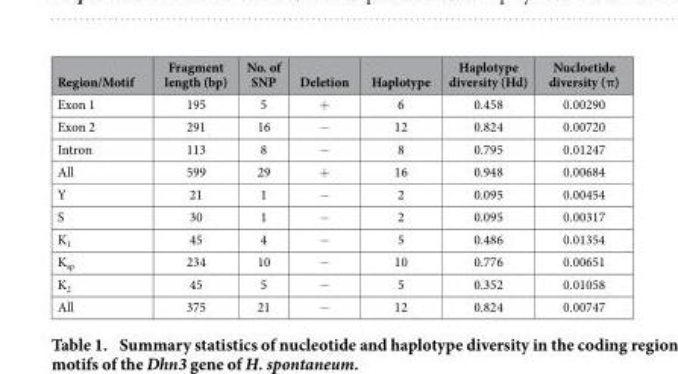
<table><thead><tr><td>Region/Motif</td><td>Fragment length (bp)</td><td>No. of SNP</td><td>Deletion</td><td>Haplotype</td><td>Haplotype diversity (Hd)</td><td>Nucloetide diversity (π)</td></tr></thead><tbody><tr><td>Exon 1</td><td>195</td><td>5</td><td>+</td><td>6</td><td>0.458</td><td>0.00290</td></tr><tr><td>Exon 2</td><td>291</td><td>16</td><td>−</td><td>12</td><td>0.824</td><td>0.00720</td></tr><tr><td>Intron</td><td>113</td><td>8</td><td>−</td><td>8</td><td>0.795</td><td>0.01247</td></tr><tr><td>All</td><td>599</td><td>29</td><td>+</td><td>16</td><td>0.948</td><td>0.00684</td></tr><tr><td>Y</td><td>21</td><td>1</td><td>−</td><td>2</td><td>0.095</td><td>0.00454</td></tr><tr><td>S</td><td>30</td><td>1</td><td>−</td><td>2</td><td>0.095</td><td>0.00317</td></tr><tr><td>K<sub>1</sub></td><td>45</td><td>4</td><td>−</td><td>5</td><td>0.486</td><td>0.01354</td></tr><tr><td>K<sub>sp</sub></td><td>234</td><td>10</td><td>−</td><td>10</td><td>0.776</td><td>0.00651</td></tr><tr><td>K<sub>2</sub></td><td>45</td><td>5</td><td>−</td><td>5</td><td>0.352</td><td>0.01058</td></tr><tr><td>All</td><td>375</td><td>21</td><td>−</td><td>12</td><td>0.824</td><td>0.00747</td></tr></tbody></table>